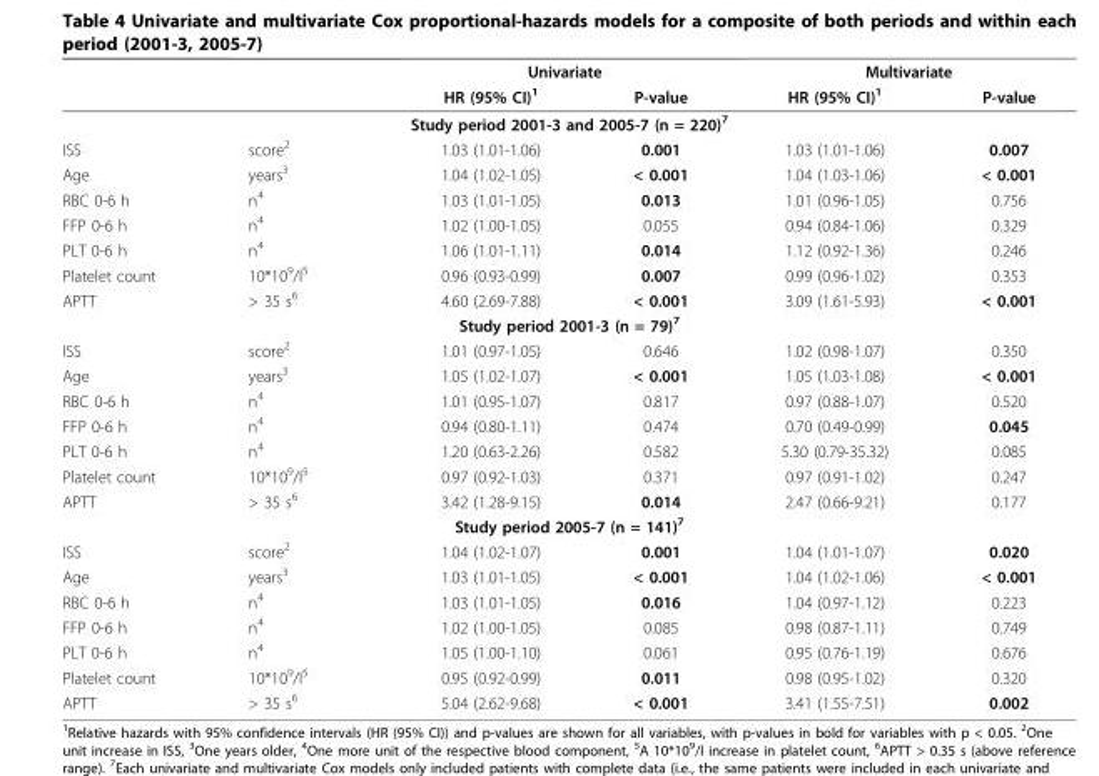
<table><thead><tr><td rowspan="2"></td><td rowspan="2"></td><td colspan="2">Univariate</td><td colspan="2">Multivariate</td></tr><tr><td>HR (95% CI)<sup>1</sup></td><td>P-value</td><td>HR (95% CI)<sup>1</sup></td><td>P-value</td></tr></thead><tbody><tr><td colspan="6">Study period 2001-3 and 2005-7 (n = 220)<sup>7</sup></td></tr><tr><td>ISS</td><td>score<sup>2</sup></td><td>1.03 (1.01-1.06)</td><td>0.001</td><td>1.03 (1.01-1.06)</td><td>0.007</td></tr><tr><td>Age</td><td>years<sup>3</sup></td><td>1.04 (1.02-1.05)</td><td>&lt; 0.001</td><td>1.04 (1.03-1.06)</td><td>&lt; 0.001</td></tr><tr><td>RBC 0-6 h</td><td>n<sup>4</sup></td><td>1.03 (1.01-1.05)</td><td>0.013</td><td>1.01 (0.96-1.05)</td><td>0.756</td></tr><tr><td>FFP 0-6 h</td><td>n<sup>4</sup></td><td>1.02 (1.00-1.05)</td><td>0.055</td><td>0.94 (0.84-1.06)</td><td>0.329</td></tr><tr><td>PLT 0-6 h</td><td>n<sup>4</sup></td><td>1.06 (1.01-1.11)</td><td>0.014</td><td>1.12 (0.92-1.36)</td><td>0.246</td></tr><tr><td>Platelet count</td><td>10*10<sup>9</sup>/l<sup>5</sup></td><td>0.96 (0.93-0.99)</td><td>0.007</td><td>0.99 (0.96-1.02)</td><td>0.353</td></tr><tr><td>APTT</td><td>&gt; 35 s<sup>6</sup></td><td>4.60 (2.69-7.88)</td><td>&lt; 0.001</td><td>3.09 (1.61-5.93)</td><td>&lt; 0.001</td></tr><tr><td colspan="6">Study period 2001-3 (n = 79)<sup>7</sup></td></tr><tr><td>ISS</td><td>score<sup>2</sup></td><td>1.01 (0.97-1.05)</td><td>0.646</td><td>1.02 (0.98-1.07)</td><td>0.350</td></tr><tr><td>Age</td><td>years<sup>3</sup></td><td>1.05 (1.02-1.07)</td><td>&lt; 0.001</td><td>1.05 (1.03-1.08)</td><td>&lt; 0.001</td></tr><tr><td>RBC 0-6 h</td><td>n<sup>4</sup></td><td>1.01 (0.95-1.07)</td><td>0.817</td><td>0.97 (0.88-1.07)</td><td>0.520</td></tr><tr><td>FFP 0-6 h</td><td>n<sup>4</sup></td><td>0.94 (0.80-1.11)</td><td>0.474</td><td>0.70 (0.49-0.99)</td><td>0.045</td></tr><tr><td>PLT 0-6 h</td><td>n<sup>4</sup></td><td>1.20 (0.63-2.26)</td><td>0.582</td><td>5.30 (0.79-35.32)</td><td>0.085</td></tr><tr><td>Platelet count</td><td>10*10<sup>9</sup>/l<sup>5</sup></td><td>0.97 (0.92-1.03)</td><td>0.371</td><td>0.97 (0.91-1.02)</td><td>0.247</td></tr><tr><td>APTT</td><td>&gt; 35 s<sup>6</sup></td><td>3.42 (1.28-9.15)</td><td>0.014</td><td>2.47 (0.66-9.21)</td><td>0.177</td></tr><tr><td colspan="6">Study period 2005-7 (n = 141)<sup>7</sup></td></tr><tr><td>ISS</td><td>score<sup>2</sup></td><td>1.04 (1.02-1.07)</td><td>0.001</td><td>1.04 (1.01-1.07)</td><td>0.020</td></tr><tr><td>Age</td><td>years<sup>3</sup></td><td>1.03 (1.01-1.05)</td><td>&lt; 0.001</td><td>1.04 (1.02-1.06)</td><td>&lt; 0.001</td></tr><tr><td>RBC 0-6 h</td><td>n<sup>4</sup></td><td>1.03 (1.01-1.05)</td><td>0.016</td><td>1.04 (0.97-1.12)</td><td>0.223</td></tr><tr><td>FFP 0-6 h</td><td>n<sup>4</sup></td><td>1.02 (1.00-1.05)</td><td>0.085</td><td>0.98 (0.87-1.11)</td><td>0.749</td></tr><tr><td>PLT 0-6 h</td><td>n<sup>4</sup></td><td>1.05 (1.00-1.10)</td><td>0.061</td><td>0.95 (0.76-1.19)</td><td>0.676</td></tr><tr><td>Platelet count</td><td>10*10<sup>9</sup>/l<sup>5</sup></td><td>0.95 (0.92-0.99)</td><td>0.011</td><td>0.98 (0.95-1.02)</td><td>0.320</td></tr><tr><td>APTT</td><td>&gt; 35 s<sup>6</sup></td><td>5.04 (2.62-9.68)</td><td>&lt; 0.001</td><td>3.41 (1.55-7.51)</td><td>0.002</td></tr></tbody></table>